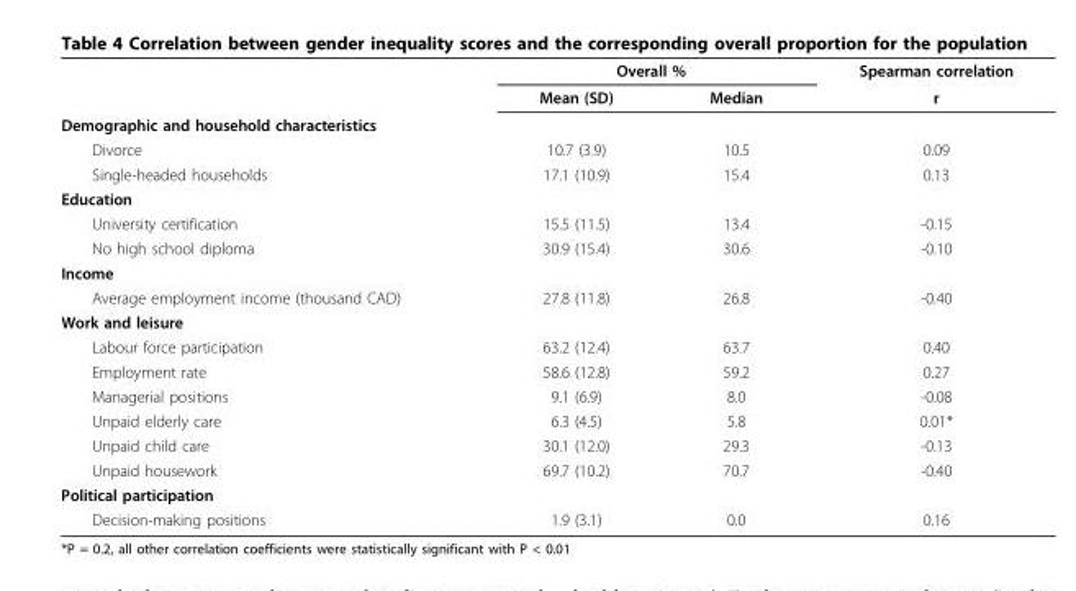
<table><thead><tr><td rowspan="2"></td><td colspan="2">Overall %</td><td rowspan="2">Spearman correlation r</td></tr><tr><td>Mean (SD)</td><td>Median</td></tr></thead><tbody><tr><td colspan="4">Demographic and household characteristics</td></tr><tr><td>Divorce</td><td>10.7 (3.9)</td><td>10.5</td><td>0.09</td></tr><tr><td>Single-headed households</td><td>17.1 (10.9)</td><td>15.4</td><td>0.13</td></tr><tr><td colspan="4">Education</td></tr><tr><td>University certification</td><td>15.5 (11.5)</td><td>13.4</td><td>-0.15</td></tr><tr><td>No high school diploma</td><td>30.9 (15.4)</td><td>30.6</td><td>-0.10</td></tr><tr><td colspan="4">Income</td></tr><tr><td>Average employment income (thousand CAD)</td><td>27.8 (11.8)</td><td>26.8</td><td>-0.40</td></tr><tr><td colspan="4">Work and leisure</td></tr><tr><td>Labour force participation</td><td>63.2 (12.4)</td><td>63.7</td><td>0.40</td></tr><tr><td>Employment rate</td><td>58.6 (12.8)</td><td>59.2</td><td>0.27</td></tr><tr><td>Managerial positions</td><td>9.1 (6.9)</td><td>8.0</td><td>-0.08</td></tr><tr><td>Unpaid elderly care</td><td>6.3 (4.5)</td><td>5.8</td><td>0.01*</td></tr><tr><td>Unpaid child care</td><td>30.1 (12.0)</td><td>29.3</td><td>-0.13</td></tr><tr><td>Unpaid housework</td><td>69.7 (10.2)</td><td>70.7</td><td>-0.40</td></tr><tr><td colspan="4">Political participation</td></tr><tr><td>Decision-making positions</td><td>1.9 (3.1)</td><td>0.0</td><td>0.16</td></tr></tbody></table>